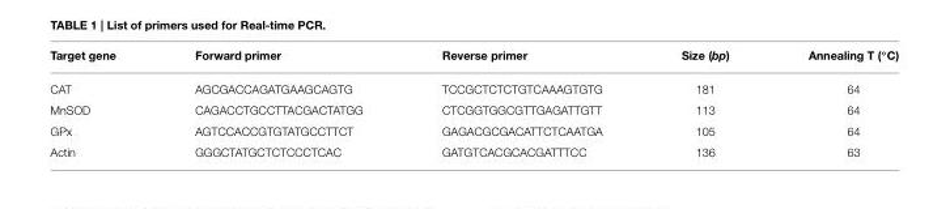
<table><thead><tr><td>Target gene</td><td>Forward primer</td><td>Reverse primer</td><td>Size (bp)</td><td>Annealing T (◦C)</td></tr></thead><tbody><tr><td>CAT</td><td>AGCGACCAGATGAAGCAGTG</td><td>TCCGCTCTCTGTCAAAGTGTG</td><td>181</td><td>64</td></tr><tr><td>MnSOD</td><td>CAGACCTGCCTTACGACTATGG</td><td>CTCGGTGGCGTTGAGATTGTT</td><td>113</td><td>64</td></tr><tr><td>GPx</td><td>AGTCCACCGTGTATGCCTTCT</td><td>GAGACGCGACATTCTCAATGA</td><td>105</td><td>64</td></tr><tr><td>Actin</td><td>GGGCTATGCTCTCCCTCAC</td><td>GATGTCACGCACGATTTCC</td><td>136</td><td>63</td></tr></tbody></table>